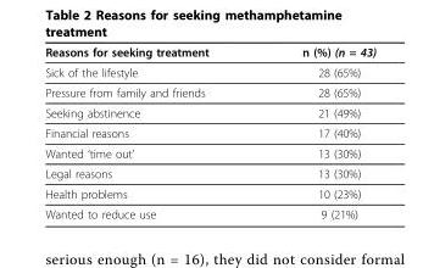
<table><thead><tr><td>Reasons for seeking treatment</td><td>n (%) (n = 43)</td></tr></thead><tbody><tr><td>Sick of the lifestyle</td><td>28 (65%)</td></tr><tr><td>Pressure from family and friends</td><td>28 (65%)</td></tr><tr><td>Seeking abstinence</td><td>21 (49%)</td></tr><tr><td>Financial reasons</td><td>17 (40%)</td></tr><tr><td>Wanted ‘time out’</td><td>13 (30%)</td></tr><tr><td>Legal reasons</td><td>13 (30%)</td></tr><tr><td>Health problems</td><td>10 (23%)</td></tr><tr><td>Wanted to reduce use</td><td>9 (21%)</td></tr></tbody></table>